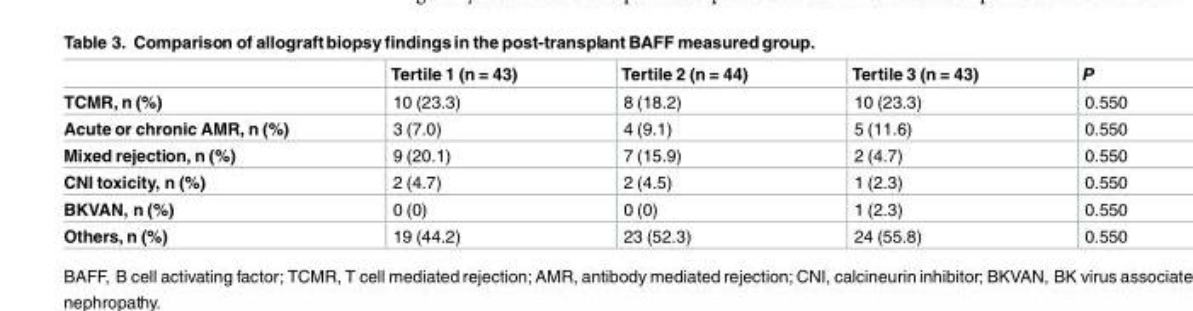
<table><thead><tr><td></td><td>Tertile 1 (n = 43)</td><td>Tertile 2 (n = 44)</td><td>Tertile 3 (n = 43)</td><td>P</td></tr></thead><tbody><tr><td>TCMR, n (%)</td><td>10 (23.3)</td><td>8 (18.2)</td><td>10 (23.3)</td><td>0.550</td></tr><tr><td>Acute or chronic AMR, n (%)</td><td>3 (7.0)</td><td>4 (9.1)</td><td>5 (11.6)</td><td>0.550</td></tr><tr><td>Mixed rejection, n (%)</td><td>9 (20.1)</td><td>7 (15.9)</td><td>2 (4.7)</td><td>0.550</td></tr><tr><td>CNI toxicity, n (%)</td><td>2 (4.7)</td><td>2 (4.5)</td><td>1 (2.3)</td><td>0.550</td></tr><tr><td>BKVAN, n (%)</td><td>0 (0)</td><td>0 (0)</td><td>1 (2.3)</td><td>0.550</td></tr><tr><td>Others, n (%)</td><td>19 (44.2)</td><td>23 (52.3)</td><td>24 (55.8)</td><td>0.550</td></tr></tbody></table>